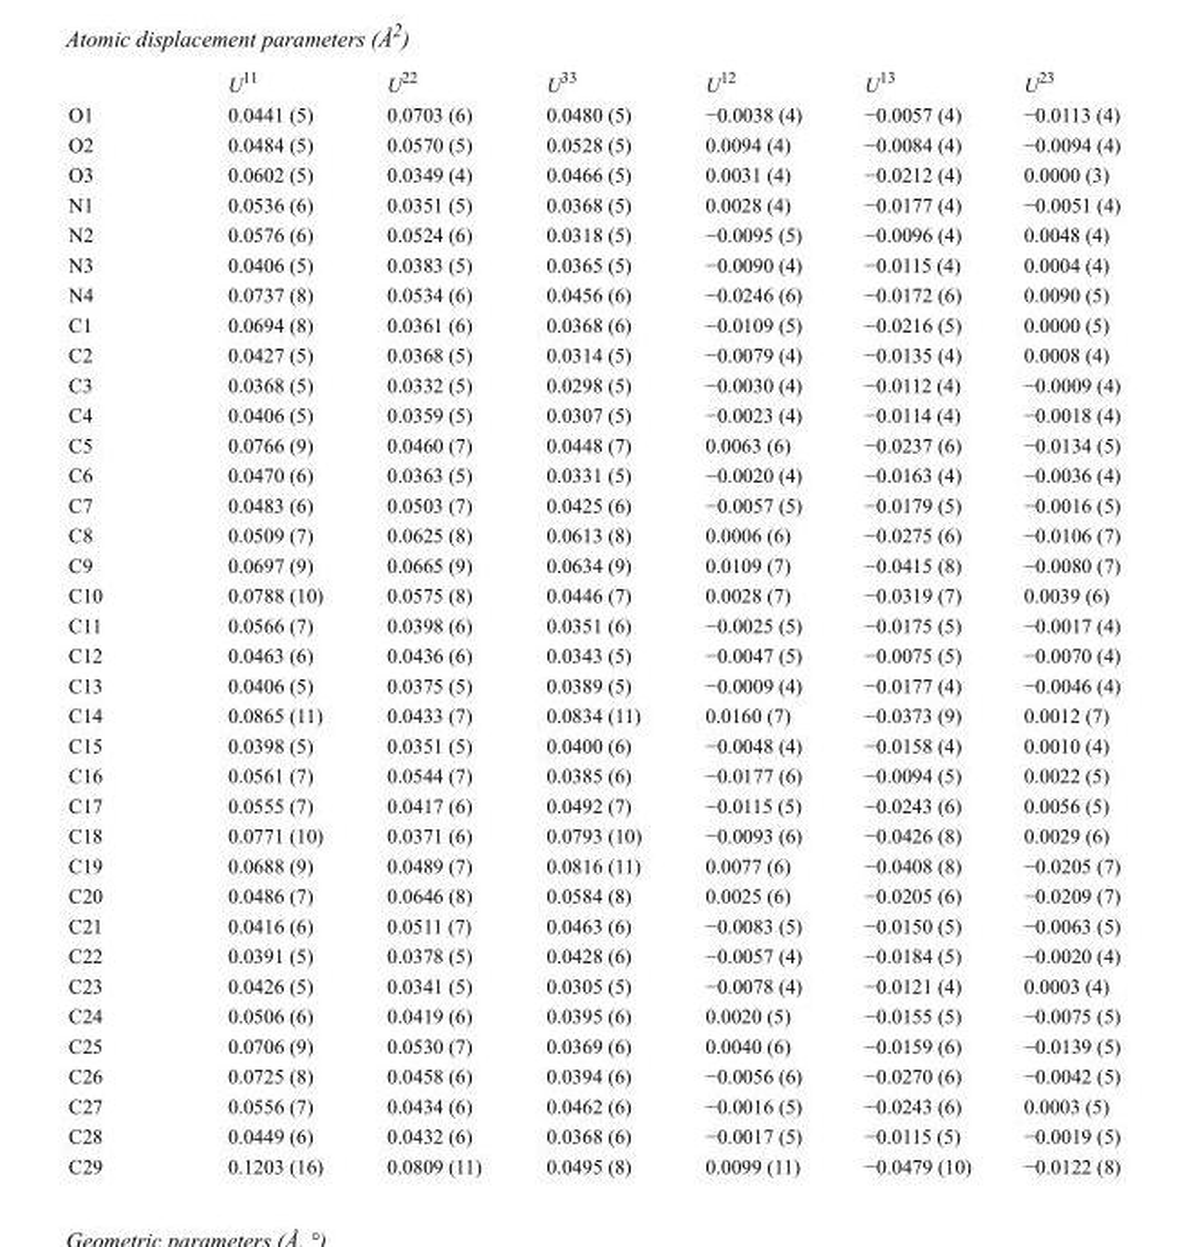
<table><thead><tr><td></td><td>U<sup>11</sup></td><td>U<sup>22</sup></td><td>U<sup>33</sup></td><td>U<sup>12</sup></td><td>U<sup>13</sup></td><td>U<sup>23</sup></td></tr></thead><tbody><tr><td>O1</td><td>0.0441 (5)</td><td>0.0703 (6)</td><td>0.0480 (5)</td><td>−0.0038 (4)</td><td>−0.0057 (4)</td><td>−0.0113 (4)</td></tr><tr><td>O2</td><td>0.0484 (5)</td><td>0.0570 (5)</td><td>0.0528 (5)</td><td>0.0094 (4)</td><td>−0.0084 (4)</td><td>−0.0094 (4)</td></tr><tr><td>O3</td><td>0.0602 (5)</td><td>0.0349 (4)</td><td>0.0466 (5)</td><td>0.0031 (4)</td><td>−0.0212 (4)</td><td>0.0000 (3)</td></tr><tr><td>N1</td><td>0.0536 (6)</td><td>0.0351 (5)</td><td>0.0368 (5)</td><td>0.0028 (4)</td><td>−0.0177 (4)</td><td>−0.0051 (4)</td></tr><tr><td>N2</td><td>0.0576 (6)</td><td>0.0524 (6)</td><td>0.0318 (5)</td><td>−0.0095 (5)</td><td>−0.0096 (4)</td><td>0.0048 (4)</td></tr><tr><td>N3</td><td>0.0406 (5)</td><td>0.0383 (5)</td><td>0.0365 (5)</td><td>−0.0090 (4)</td><td>−0.0115 (4)</td><td>0.0004 (4)</td></tr><tr><td>N4</td><td>0.0737 (8)</td><td>0.0534 (6)</td><td>0.0456 (6)</td><td>−0.0246 (6)</td><td>−0.0172 (6)</td><td>0.0090 (5)</td></tr><tr><td>C1</td><td>0.0694 (8)</td><td>0.0361 (6)</td><td>0.0368 (6)</td><td>−0.0109 (5)</td><td>−0.0216 (5)</td><td>0.0000 (5)</td></tr><tr><td>C2</td><td>0.0427 (5)</td><td>0.0368 (5)</td><td>0.0314 (5)</td><td>−0.0079 (4)</td><td>−0.0135 (4)</td><td>0.0008 (4)</td></tr><tr><td>C3</td><td>0.0368 (5)</td><td>0.0332 (5)</td><td>0.0298 (5)</td><td>−0.0030 (4)</td><td>−0.0112 (4)</td><td>−0.0009 (4)</td></tr><tr><td>C4</td><td>0.0406 (5)</td><td>0.0359 (5)</td><td>0.0307 (5)</td><td>−0.0023 (4)</td><td>−0.0114 (4)</td><td>−0.0018 (4)</td></tr><tr><td>C5</td><td>0.0766 (9)</td><td>0.0460 (7)</td><td>0.0448 (7)</td><td>0.0063 (6)</td><td>−0.0237 (6)</td><td>−0.0134 (5)</td></tr><tr><td>C6</td><td>0.0470 (6)</td><td>0.0363 (5)</td><td>0.0331 (5)</td><td>−0.0020 (4)</td><td>−0.0163 (4)</td><td>−0.0036 (4)</td></tr><tr><td>C7</td><td>0.0483 (6)</td><td>0.0503 (7)</td><td>0.0425 (6)</td><td>−0.0057 (5)</td><td>−0.0179 (5)</td><td>−0.0016 (5)</td></tr><tr><td>C8</td><td>0.0509 (7)</td><td>0.0625 (8)</td><td>0.0613 (8)</td><td>0.0006 (6)</td><td>−0.0275 (6)</td><td>−0.0106 (7)</td></tr><tr><td>C9</td><td>0.0697 (9)</td><td>0.0665 (9)</td><td>0.0634 (9)</td><td>0.0109 (7)</td><td>−0.0415 (8)</td><td>−0.0080 (7)</td></tr><tr><td>C10</td><td>0.0788 (10)</td><td>0.0575 (8)</td><td>0.0446 (7)</td><td>0.0028 (7)</td><td>−0.0319 (7)</td><td>0.0039 (6)</td></tr><tr><td>C11</td><td>0.0566 (7)</td><td>0.0398 (6)</td><td>0.0351 (6)</td><td>−0.0025 (5)</td><td>−0.0175 (5)</td><td>−0.0017 (4)</td></tr><tr><td>C12</td><td>0.0463 (6)</td><td>0.0436 (6)</td><td>0.0343 (5)</td><td>−0.0047 (5)</td><td>−0.0075 (5)</td><td>−0.0070 (4)</td></tr><tr><td>C13</td><td>0.0406 (5)</td><td>0.0375 (5)</td><td>0.0389 (5)</td><td>−0.0009 (4)</td><td>−0.0177 (4)</td><td>−0.0046 (4)</td></tr><tr><td>C14</td><td>0.0865 (11)</td><td>0.0433 (7)</td><td>0.0834 (11)</td><td>0.0160 (7)</td><td>−0.0373 (9)</td><td>0.0012 (7)</td></tr><tr><td>C15</td><td>0.0398 (5)</td><td>0.0351 (5)</td><td>0.0400 (6)</td><td>−0.0048 (4)</td><td>−0.0158 (4)</td><td>0.0010 (4)</td></tr><tr><td>C16</td><td>0.0561 (7)</td><td>0.0544 (7)</td><td>0.0385 (6)</td><td>−0.0177 (6)</td><td>−0.0094 (5)</td><td>0.0022 (5)</td></tr><tr><td>C17</td><td>0.0555 (7)</td><td>0.0417 (6)</td><td>0.0492 (7)</td><td>−0.0115 (5)</td><td>−0.0243 (6)</td><td>0.0056 (5)</td></tr><tr><td>C18</td><td>0.0771 (10)</td><td>0.0371 (6)</td><td>0.0793 (10)</td><td>−0.0093 (6)</td><td>−0.0426 (8)</td><td>0.0029 (6)</td></tr><tr><td>C19</td><td>0.0688 (9)</td><td>0.0489 (7)</td><td>0.0816 (11)</td><td>0.0077 (6)</td><td>−0.0408 (8)</td><td>−0.0205 (7)</td></tr><tr><td>C20</td><td>0.0486 (7)</td><td>0.0646 (8)</td><td>0.0584 (8)</td><td>0.0025 (6)</td><td>−0.0205 (6)</td><td>−0.0209 (7)</td></tr><tr><td>C21</td><td>0.0416 (6)</td><td>0.0511 (7)</td><td>0.0463 (6)</td><td>−0.0083 (5)</td><td>−0.0150 (5)</td><td>−0.0063 (5)</td></tr><tr><td>C22</td><td>0.0391 (5)</td><td>0.0378 (5)</td><td>0.0428 (6)</td><td>−0.0057 (4)</td><td>−0.0184 (5)</td><td>−0.0020 (4)</td></tr><tr><td>C23</td><td>0.0426 (5)</td><td>0.0341 (5)</td><td>0.0305 (5)</td><td>−0.0078 (4)</td><td>−0.0121 (4)</td><td>0.0003 (4)</td></tr><tr><td>C24</td><td>0.0506 (6)</td><td>0.0419 (6)</td><td>0.0395 (6)</td><td>0.0020 (5)</td><td>−0.0155 (5)</td><td>−0.0075 (5)</td></tr><tr><td>C25</td><td>0.0706 (9)</td><td>0.0530 (7)</td><td>0.0369 (6)</td><td>0.0040 (6)</td><td>−0.0159 (6)</td><td>−0.0139 (5)</td></tr><tr><td>C26</td><td>0.0725 (8)</td><td>0.0458 (6)</td><td>0.0394 (6)</td><td>−0.0056 (6)</td><td>−0.0270 (6)</td><td>−0.0042 (5)</td></tr><tr><td>C27</td><td>0.0556 (7)</td><td>0.0434 (6)</td><td>0.0462 (6)</td><td>−0.0016 (5)</td><td>−0.0243 (6)</td><td>0.0003 (5)</td></tr><tr><td>C28</td><td>0.0449 (6)</td><td>0.0432 (6)</td><td>0.0368 (6)</td><td>−0.0017 (5)</td><td>−0.0115 (5)</td><td>−0.0019 (5)</td></tr><tr><td>C29</td><td>0.1203 (16)</td><td>0.0809 (11)</td><td>0.0495 (8)</td><td>0.0099 (11)</td><td>−0.0479 (10)</td><td>−0.0122 (8)</td></tr></tbody></table>